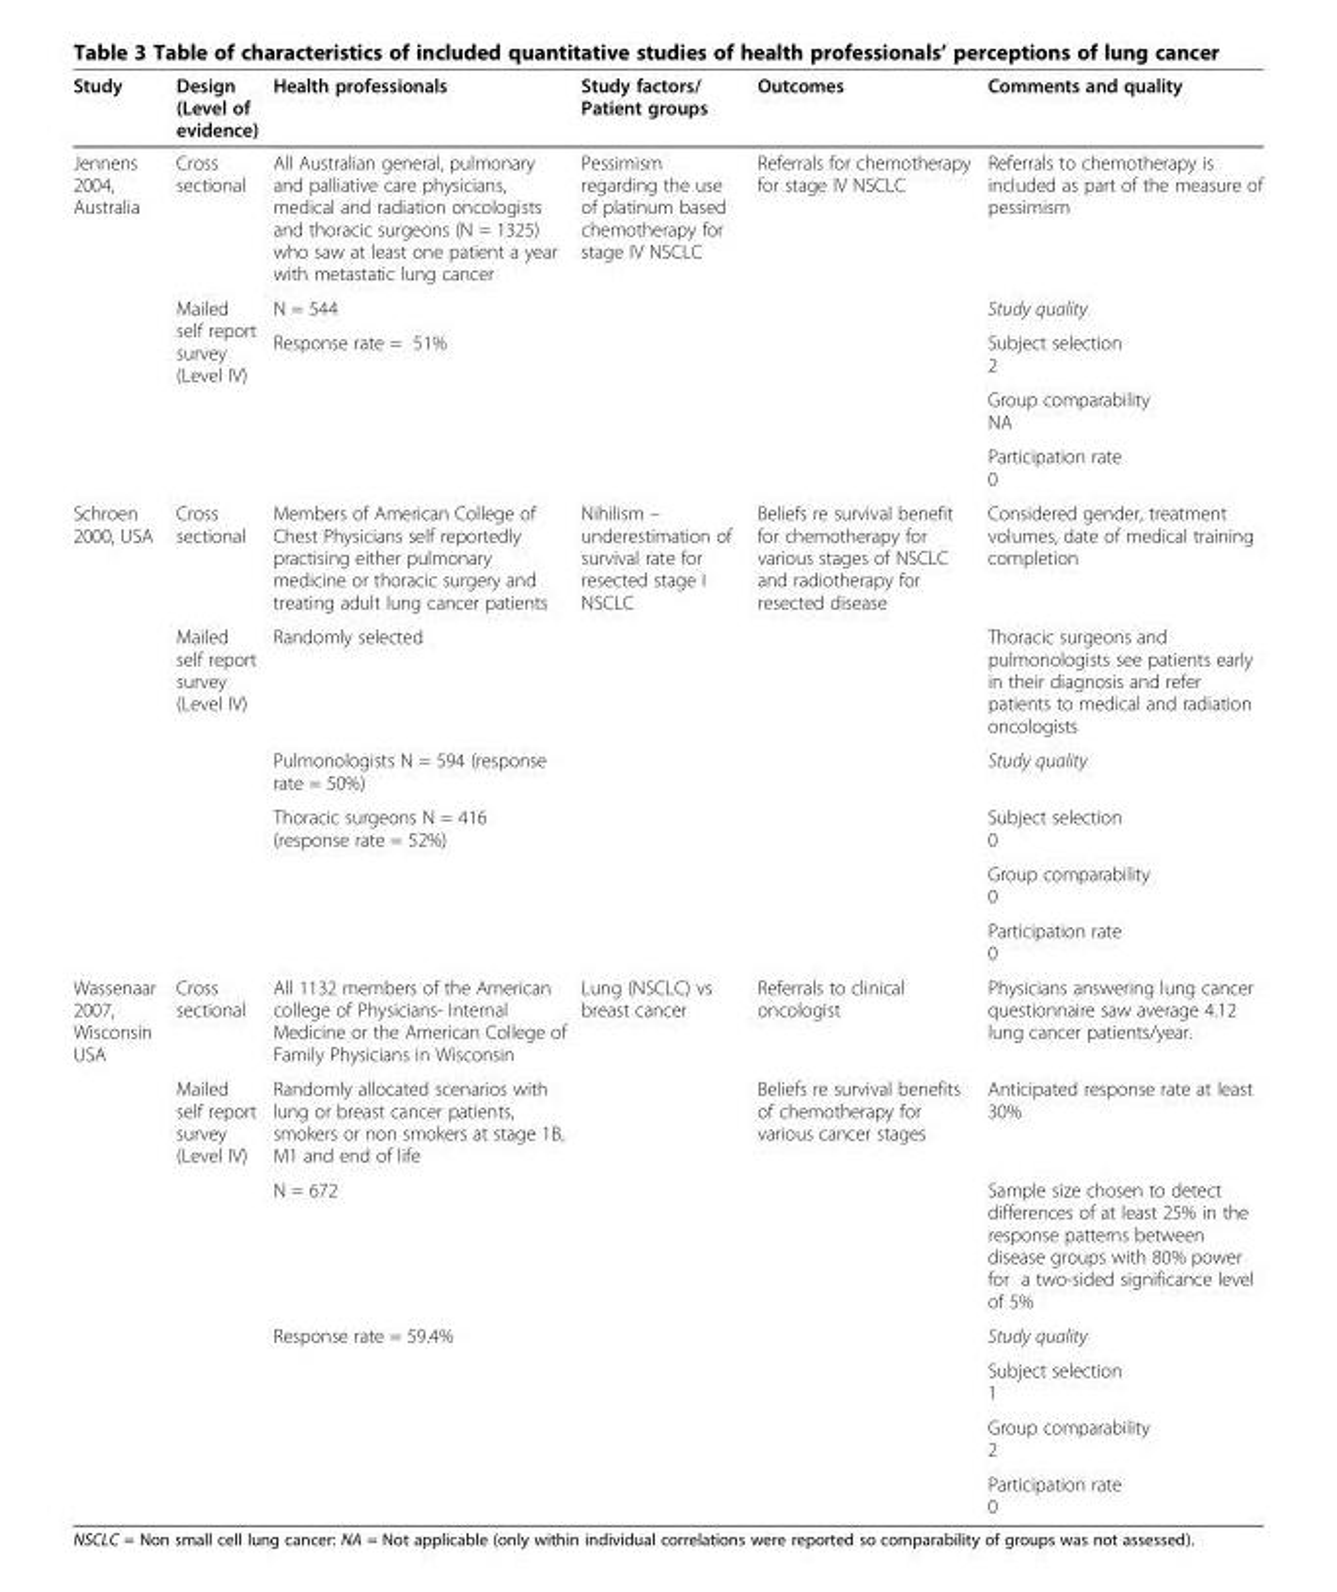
<table><thead><tr><td>Study</td><td>Design (Level of evidence)</td><td>Health professionals</td><td>Study factors/ Patient groups</td><td>Outcomes</td><td>Comments and quality</td></tr></thead><tbody><tr><td rowspan="5">Jennens 2004, Australia</td><td>Cross sectional</td><td>All Australian general, pulmonary and palliative care physicians, medical and radiation oncologists and thoracic surgeons (N = 1325) who saw at least one patient a year with metastatic lung cancer</td><td rowspan="5">Pessimism regarding the use of platinum based chemotherapy for stage IV NSCLC</td><td rowspan="5">Referrals for chemotherapy for stage IV NSCLC</td><td>Referrals to chemotherapy is included as part of the measure of pessimism</td></tr><tr><td rowspan="4">Mailed self report survey (Level IV)</td><td>N = 544</td><td>Study quality</td></tr><tr><td rowspan="3">Response rate = 51%</td><td>Subject selection 2</td></tr><tr><td>Group comparability NA</td></tr><tr><td>Participation rate 0</td></tr><tr><td rowspan="6">Schroen 2000, USA</td><td>Cross sectional</td><td>Members of American College of Chest Physicians self reportedly practising either pulmonary medicine or thoracic surgery and treating adult lung cancer patients</td><td rowspan="6">Nihilism – underestimation of survival rate for resected stage I NSCLC</td><td rowspan="6">Beliefs re survival benefit for chemotherapy for various stages of NSCLC and radiotherapy for resected disease</td><td>Considered gender, treatment volumes, date of medical training completion</td></tr><tr><td rowspan="5">Mailed self report survey (Level IV)</td><td>Randomly selected</td><td>Thoracic surgeons and pulmonologists see patients early in their diagnosis and refer patients to medical and radiation oncologists</td></tr><tr><td>Pulmonologists N = 594 (response rate = 50%)</td><td>Study quality</td></tr><tr><td rowspan="3">Thoracic surgeons N = 416 (response rate = 52%)</td><td>Subject selection 0</td></tr><tr><td>Group comparability 0</td></tr><tr><td>Participation rate 0</td></tr><tr><td rowspan="7">Wassenaar 2007, Wisconsin USA</td><td>Cross sectional</td><td>All 1132 members of the American college of Physicians- Internal Medicine or the American College of Family Physicians in Wisconsin</td><td rowspan="7">Lung (NSCLC) vs breast cancer</td><td>Referrals to clinical oncologist</td><td>Physicians answering lung cancer questionnaire saw average 4.12 lung cancer patients/year.</td></tr><tr><td rowspan="6">Mailed self report survey (Level IV)</td><td>Randomly allocated scenarios with lung or breast cancer patients, smokers or non smokers at stage 1B, M1 and end of life</td><td rowspan="6">Beliefs re survival benefits of chemotherapy for various cancer stages</td><td>Anticipated response rate at least 30%</td></tr><tr><td>N = 672</td><td>Sample size chosen to detect differences of at least 25% in the response patterns between disease groups with 80% power for a two-sided significance level of 5%</td></tr><tr><td rowspan="4">Response rate = 59.4%</td><td>Study quality</td></tr><tr><td>Subject selection 1</td></tr><tr><td>Group comparability 2</td></tr><tr><td>Participation rate 0</td></tr></tbody></table>